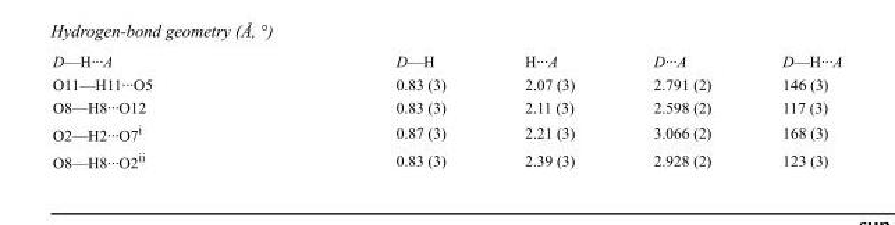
<table><tbody><tr><td>D—H···A</td><td>D—H</td><td>H···A</td><td>D···A</td><td>D—H···A</td></tr><tr><td>O11—H11···O5</td><td>0.83 (3)</td><td>2.07 (3)</td><td>2.791 (2)</td><td>146 (3)</td></tr><tr><td>O8—H8···O12</td><td>0.83 (3)</td><td>2.11 (3)</td><td>2.598 (2)</td><td>117 (3)</td></tr><tr><td>O2—H2···O7<sup>i</sup></td><td>0.87 (3)</td><td>2.21 (3)</td><td>3.066 (2)</td><td>168 (3)</td></tr><tr><td>O8—H8···O2<sup>ii</sup></td><td>0.83 (3)</td><td>2.39 (3)</td><td>2.928 (2)</td><td>123 (3)</td></tr></tbody></table>